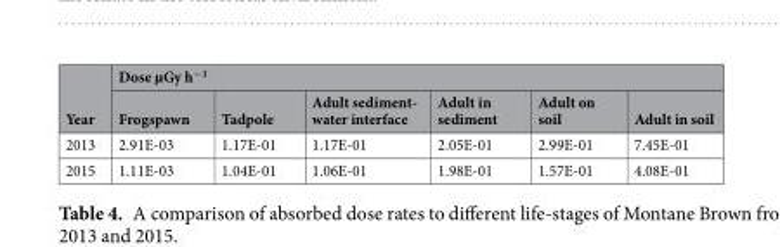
<table><thead><tr><td rowspan="2">Year</td><td colspan="6">Dose µGy h<sup>−1</sup></td></tr><tr><td>Frogspawn</td><td>Tadpole</td><td>Adult sediment- water interface</td><td>Adult in sediment</td><td>Adult on soil</td><td>Adult in soil</td></tr></thead><tbody><tr><td>2013</td><td>2.91E-03</td><td>1.17E-01</td><td>1.17E-01</td><td>2.05E-01</td><td>2.99E-01</td><td>7.45E-01</td></tr><tr><td>2015</td><td>1.11E-03</td><td>1.04E-01</td><td>1.06E-01</td><td>1.98E-01</td><td>1.57E-01</td><td>4.08E-01</td></tr></tbody></table>